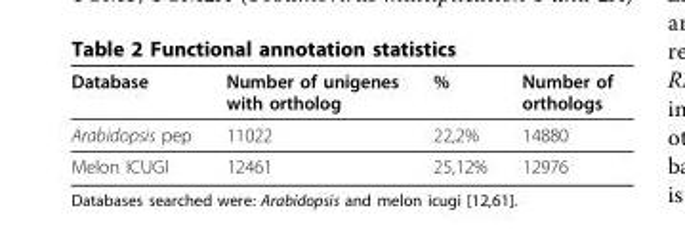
<table><thead><tr><td>Database</td><td>Number of unigenes with ortholog</td><td>%</td><td>Number of orthologs</td></tr></thead><tbody><tr><td>Arabidopsis pep</td><td>11022</td><td>22,2%</td><td>14880</td></tr><tr><td>Melon ICUGI</td><td>12461</td><td>25,12%</td><td>12976</td></tr></tbody></table>